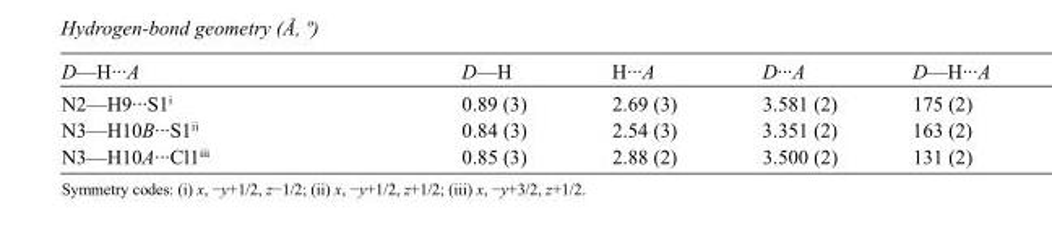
<table><tbody><tr><td>D—H···A</td><td>D—H</td><td>H···A</td><td>D···A</td><td>D—H···A</td></tr><tr><td>N2—H9···S1<sup>i</sup></td><td>0.89 (3)</td><td>2.69 (3)</td><td>3.581 (2)</td><td>175 (2)</td></tr><tr><td>N3—H10B···S1<sup>ii</sup></td><td>0.84 (3)</td><td>2.54 (3)</td><td>3.351 (2)</td><td>163 (2)</td></tr><tr><td>N3—H10A···Cl1<sup>iii</sup></td><td>0.85 (3)</td><td>2.88 (2)</td><td>3.500 (2)</td><td>131 (2)</td></tr></tbody></table>